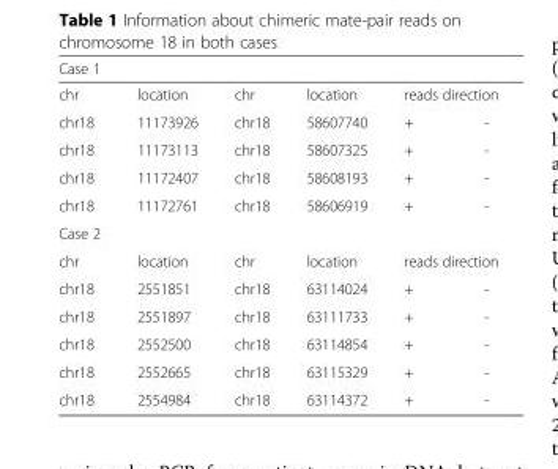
<table><thead><tr><td>Case 1</td><td></td><td></td><td></td><td></td><td></td></tr></thead><tbody><tr><td>chr</td><td>location</td><td>chr</td><td>location</td><td colspan="2">reads direction</td></tr><tr><td>chr18</td><td>11173926</td><td>chr18</td><td>58607740</td><td>+</td><td>-</td></tr><tr><td>chr18</td><td>11173113</td><td>chr18</td><td>58607325</td><td>+</td><td>-</td></tr><tr><td>chr18</td><td>11172407</td><td>chr18</td><td>58608193</td><td>+</td><td>-</td></tr><tr><td>chr18</td><td>11172761</td><td>chr18</td><td>58606919</td><td>+</td><td>-</td></tr><tr><td colspan="6">Case 2</td></tr><tr><td>chr</td><td>location</td><td>chr</td><td>location</td><td colspan="2">reads direction</td></tr><tr><td>chr18</td><td>2551851</td><td>chr18</td><td>63114024</td><td>+</td><td>-</td></tr><tr><td>chr18</td><td>2551897</td><td>chr18</td><td>63111733</td><td>+</td><td>-</td></tr><tr><td>chr18</td><td>2552500</td><td>chr18</td><td>63114854</td><td>+</td><td>-</td></tr><tr><td>chr18</td><td>2552665</td><td>chr18</td><td>63115329</td><td>+</td><td>-</td></tr><tr><td>chr18</td><td>2554984</td><td>chr18</td><td>63114372</td><td>+</td><td>-</td></tr></tbody></table>